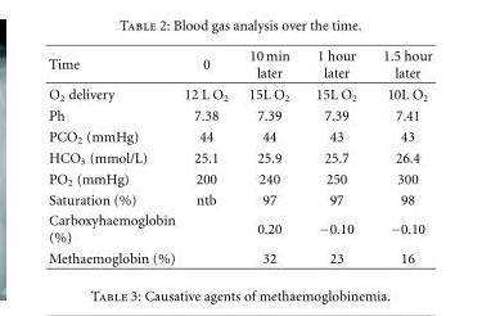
<table><thead><tr><td>Time</td><td>0</td><td>10 min later</td><td>1 hour later</td><td>1.5 hour later</td></tr></thead><tbody><tr><td>O<sub>2</sub> delivery</td><td>12 L O<sub>2</sub></td><td>15L O<sub>2</sub></td><td>15L O<sub>2</sub></td><td>10L O<sub>2</sub></td></tr><tr><td>Ph</td><td>7.38</td><td>7.39</td><td>7.39</td><td>7.41</td></tr><tr><td>PCO<sub>2</sub> (mmHg)</td><td>44</td><td>44</td><td>43</td><td>43</td></tr><tr><td>HCO<sub>3</sub> (mmol/L)</td><td>25.1</td><td>25.9</td><td>25.7</td><td>26.4</td></tr><tr><td>PO<sub>2</sub> (mmHg)</td><td>200</td><td>240</td><td>250</td><td>300</td></tr><tr><td>Saturation (%)</td><td>ntb</td><td>97</td><td>97</td><td>98</td></tr><tr><td>Carboxyhaemoglobin (%)</td><td></td><td>0.20</td><td>−0.10</td><td>−0.10</td></tr><tr><td>Methaemoglobin (%)</td><td></td><td>32</td><td>23</td><td>16</td></tr></tbody></table>